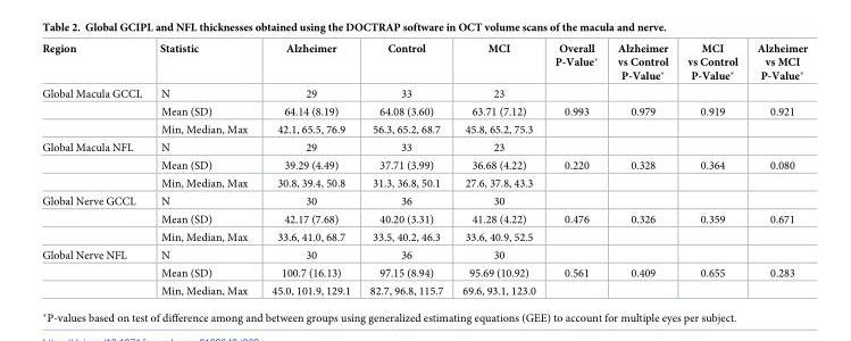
<table><thead><tr><td>Region</td><td>Statistic</td><td>Alzheimer</td><td>Control</td><td>MCI</td><td>Overall P-Value*</td><td>Alzheimer vs Control P-Value*</td><td>MCI vs Control P-Value*</td><td>Alzheimer vs MCI P-Value*</td></tr></thead><tbody><tr><td rowspan="3">Global Macula GCCL</td><td>N</td><td>29</td><td>33</td><td>23</td><td></td><td></td><td></td><td></td></tr><tr><td>Mean (SD)</td><td>64.14 (8.19)</td><td>64.08 (3.60)</td><td>63.71 (7.12)</td><td>0.993</td><td>0.979</td><td>0.919</td><td>0.921</td></tr><tr><td>Min, Median, Max</td><td>42.1, 65.5, 76.9</td><td>56.3, 65.2, 68.7</td><td>45.8, 65.2, 75.3</td><td></td><td></td><td></td><td></td></tr><tr><td rowspan="3">Global Macula NFL</td><td>N</td><td>29</td><td>33</td><td>23</td><td></td><td></td><td></td><td></td></tr><tr><td>Mean (SD)</td><td>39.29 (4.49)</td><td>37.71 (3.99)</td><td>36.68 (4.22)</td><td>0.220</td><td>0.328</td><td>0.364</td><td>0.080</td></tr><tr><td>Min, Median, Max</td><td>30.8, 39.4, 50.8</td><td>31.3, 36.8, 50.1</td><td>27.6, 37.8, 43.3</td><td></td><td></td><td></td><td></td></tr><tr><td rowspan="3">Global Nerve GCCL</td><td>N</td><td>30</td><td>36</td><td>30</td><td></td><td></td><td></td><td></td></tr><tr><td>Mean (SD)</td><td>42.17 (7.68)</td><td>40.20 (3.31)</td><td>41.28 (4.22)</td><td>0.476</td><td>0.326</td><td>0.359</td><td>0.671</td></tr><tr><td>Min, Median, Max</td><td>33.6, 41.0, 68.7</td><td>33.5, 40.2, 46.3</td><td>33.6, 40.9, 52.5</td><td></td><td></td><td></td><td></td></tr><tr><td rowspan="3">Global Nerve NFL</td><td>N</td><td>30</td><td>36</td><td>30</td><td></td><td></td><td></td><td></td></tr><tr><td>Mean (SD)</td><td>100.7 (16.13)</td><td>97.15 (8.94)</td><td>95.69 (10.92)</td><td>0.561</td><td>0.409</td><td>0.655</td><td>0.283</td></tr><tr><td>Min, Median, Max</td><td>45.0, 101.9, 129.1</td><td>82.7, 96.8, 115.7</td><td>69.6, 93.1, 123.0</td><td></td><td></td><td></td><td></td></tr></tbody></table>